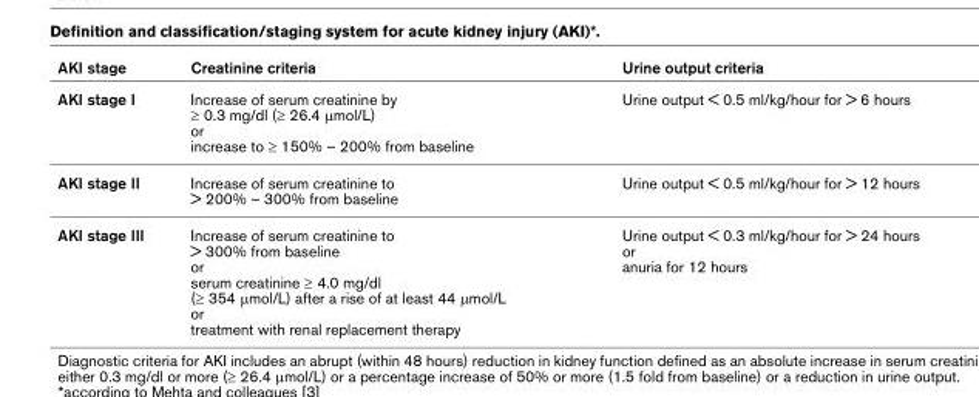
<table><thead><tr><td>AKI stage</td><td>Creatinine criteria</td><td>Urine output criteria</td></tr></thead><tbody><tr><td>AKI stage I</td><td>Increase of serum creatinine by ≥ 0.3 mg/dl (≥ 26.4 μmol/L) or increase to ≥ 150% – 200% from baseline</td><td>Urine output &lt; 0.5 ml/kg/hour for &gt; 6 hours</td></tr><tr><td>AKI stage II</td><td>Increase of serum creatinine to &gt; 200% – 300% from baseline</td><td>Urine output &lt; 0.5 ml/kg/hour for &gt; 12 hours</td></tr><tr><td>AKI stage III</td><td>Increase of serum creatinine to &gt; 300% from baseline or serum creatinine ≥ 4.0 mg/dl (≥ 354 μmol/L) after a rise of at least 44 μmol/L or treatment with renal replacement therapy</td><td>Urine output &lt; 0.3 ml/kg/hour for &gt; 24 hours or anuria for 12 hours</td></tr></tbody></table>